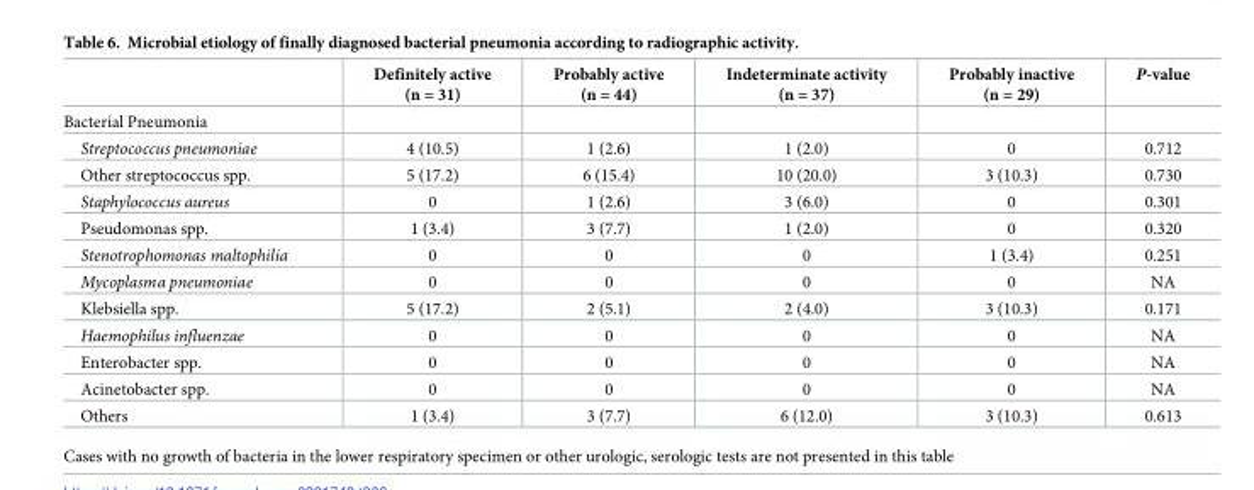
<table><thead><tr><td></td><td>Definitely active (n = 31)</td><td>Probably active (n = 44)</td><td>Indeterminate activity (n = 37)</td><td>Probably inactive (n = 29)</td><td>P-value</td></tr></thead><tbody><tr><td colspan="6">Bacterial Pneumonia</td></tr><tr><td>Streptococcus pneumoniae</td><td>4 (10.5)</td><td>1 (2.6)</td><td>1 (2.0)</td><td>0</td><td>0.712</td></tr><tr><td>Other streptococcus spp.</td><td>5 (17.2)</td><td>6 (15.4)</td><td>10 (20.0)</td><td>3 (10.3)</td><td>0.730</td></tr><tr><td>Staphylococcus aureus</td><td>0</td><td>1 (2.6)</td><td>3 (6.0)</td><td>0</td><td>0.301</td></tr><tr><td>Pseudomonas spp.</td><td>1 (3.4)</td><td>3 (7.7)</td><td>1 (2.0)</td><td>0</td><td>0.320</td></tr><tr><td>Stenotrophomonas maltophilia</td><td>0</td><td>0</td><td>0</td><td>1 (3.4)</td><td>0.251</td></tr><tr><td>Mycoplasma pneumoniae</td><td>0</td><td>0</td><td>0</td><td>0</td><td>NA</td></tr><tr><td>Klebsiella spp.</td><td>5 (17.2)</td><td>2 (5.1)</td><td>2 (4.0)</td><td>3 (10.3)</td><td>0.171</td></tr><tr><td>Haemophilus influenzae</td><td>0</td><td>0</td><td>0</td><td>0</td><td>NA</td></tr><tr><td>Enterobacter spp.</td><td>0</td><td>0</td><td>0</td><td>0</td><td>NA</td></tr><tr><td>Acinetobacter spp.</td><td>0</td><td>0</td><td>0</td><td>0</td><td>NA</td></tr><tr><td>Others</td><td>1 (3.4)</td><td>3 (7.7)</td><td>6 (12.0)</td><td>3 (10.3)</td><td>0.613</td></tr></tbody></table>